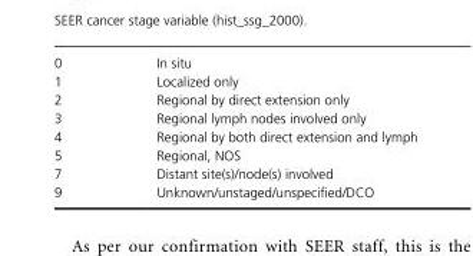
<table><tbody><tr><td>0</td><td>In situ</td></tr><tr><td>1</td><td>Localized only</td></tr><tr><td>2</td><td>Regional by direct extension only</td></tr><tr><td>3</td><td>Regional lymph nodes involved only</td></tr><tr><td>4</td><td>Regional by both direct extension and lymph</td></tr><tr><td>5</td><td>Regional, NOS</td></tr><tr><td>7</td><td>Distant site(s)/node(s) involved</td></tr><tr><td>9</td><td>Unknown/unstaged/unspecified/DCO</td></tr></tbody></table>